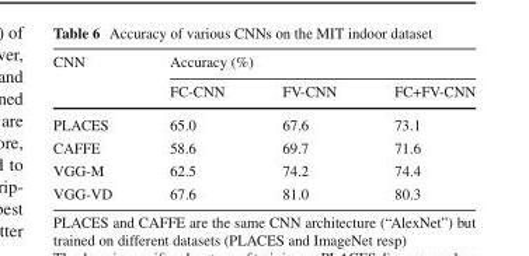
<table><thead><tr><td rowspan="2">CNN</td><td colspan="3">Accuracy (%)</td></tr><tr><td>FC-CNN</td><td>FV-CNN</td><td>FC+FV-CNN</td></tr></thead><tbody><tr><td>PLACES</td><td>65.0</td><td>67.6</td><td>73.1</td></tr><tr><td>CAFFE</td><td>58.6</td><td>69.7</td><td>71.6</td></tr><tr><td>VGG-M</td><td>62.5</td><td>74.2</td><td>74.4</td></tr><tr><td>VGG-VD</td><td>67.6</td><td>81.0</td><td>80.3</td></tr></tbody></table>